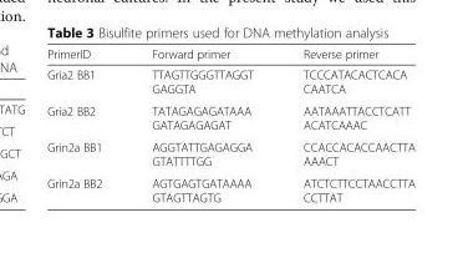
<table><thead><tr><td>PrimerID</td><td>Forward primer</td><td>Reverse primer</td></tr></thead><tbody><tr><td>Gria2 BB1</td><td>TTAGTTGGGTTAGGT GAGGTA</td><td>TCCCATACACTCACA CAATCA</td></tr><tr><td>Gria2 BB2</td><td>TATAGAGAGATAAA GATAGAGAGAT</td><td>AATAAATTACCTCATT ACATCAAAC</td></tr><tr><td>Grin2a BB1</td><td>AGGTATTGAGAGGA GTATTTTGG</td><td>CCACCACACCAACTTA AAACT</td></tr><tr><td>Grin2a BB2</td><td>AGTGAGTGATAAAA GTAGTTAGTG</td><td>ATCTCTTCCTAACCTTA CCTTAT</td></tr></tbody></table>